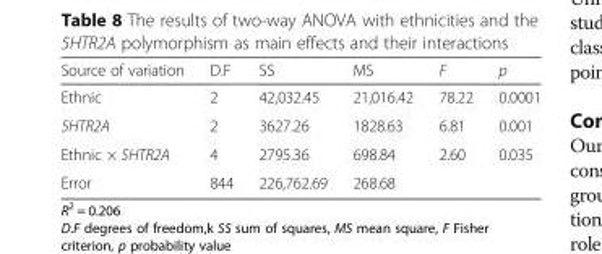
<table><thead><tr><td>Source of variation</td><td>D.F</td><td>SS</td><td>MS</td><td>F</td><td>p</td></tr></thead><tbody><tr><td>Ethnic</td><td>2</td><td>42,032.45</td><td>21,016.42</td><td>78.22</td><td>0.0001</td></tr><tr><td>5HTR2A</td><td>2</td><td>3627.26</td><td>1828.63</td><td>6.81</td><td>0.001</td></tr><tr><td>Ethnic × 5HTR2A</td><td>4</td><td>2795.36</td><td>698.84</td><td>2.60</td><td>0.035</td></tr><tr><td>Error</td><td>844</td><td>226,762.69</td><td>268.68</td><td></td><td></td></tr></tbody></table>